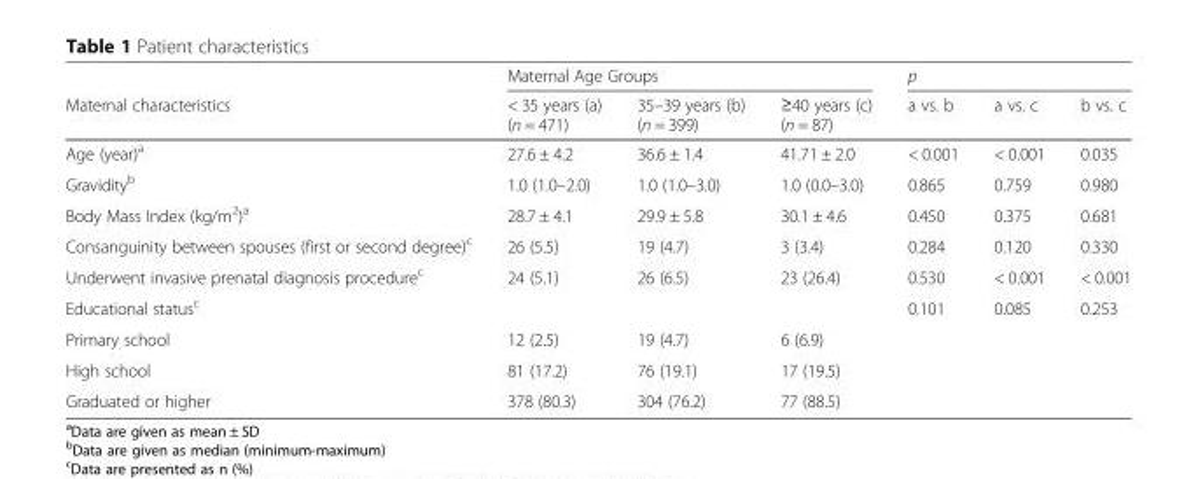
<table><thead><tr><td rowspan="2">Maternal characteristics</td><td colspan="3">Maternal Age Groups</td><td colspan="3">p</td></tr><tr><td>&lt; 35 years (a) (n = 471)</td><td>35–39 years (b) (n = 399)</td><td>≥40 years (c) (n = 87)</td><td>a vs. b</td><td>a vs. c</td><td>b vs. c</td></tr></thead><tbody><tr><td>Age (year)<sup>a</sup></td><td>27.6 ± 4.2</td><td>36.6 ± 1.4</td><td>41.71 ± 2.0</td><td>&lt; 0.001</td><td>&lt; 0.001</td><td>0.035</td></tr><tr><td>Gravidity<sup>b</sup></td><td>1.0 (1.0–2.0)</td><td>1.0 (1.0–3.0)</td><td>1.0 (0.0–3.0)</td><td>0.865</td><td>0.759</td><td>0.980</td></tr><tr><td>Body Mass Index (kg/m<sup>2</sup>)<sup>a</sup></td><td>28.7 ± 4.1</td><td>29.9 ± 5.8</td><td>30.1 ± 4.6</td><td>0.450</td><td>0.375</td><td>0.681</td></tr><tr><td>Consanguinity between spouses (first or second degree)<sup>c</sup></td><td>26 (5.5)</td><td>19 (4.7)</td><td>3 (3.4)</td><td>0.284</td><td>0.120</td><td>0.330</td></tr><tr><td>Underwent invasive prenatal diagnosis procedure<sup>c</sup></td><td>24 (5.1)</td><td>26 (6.5)</td><td>23 (26.4)</td><td>0.530</td><td>&lt; 0.001</td><td>&lt; 0.001</td></tr><tr><td>Educational status<sup>c</sup></td><td></td><td></td><td></td><td>0.101</td><td>0.085</td><td>0.253</td></tr><tr><td>Primary school</td><td>12 (2.5)</td><td>19 (4.7)</td><td>6 (6.9)</td><td></td><td></td><td></td></tr><tr><td>High school</td><td>81 (17.2)</td><td>76 (19.1)</td><td>17 (19.5)</td><td></td><td></td><td></td></tr><tr><td>Graduated or higher</td><td>378 (80.3)</td><td>304 (76.2)</td><td>77 (88.5)</td><td></td><td></td><td></td></tr></tbody></table>